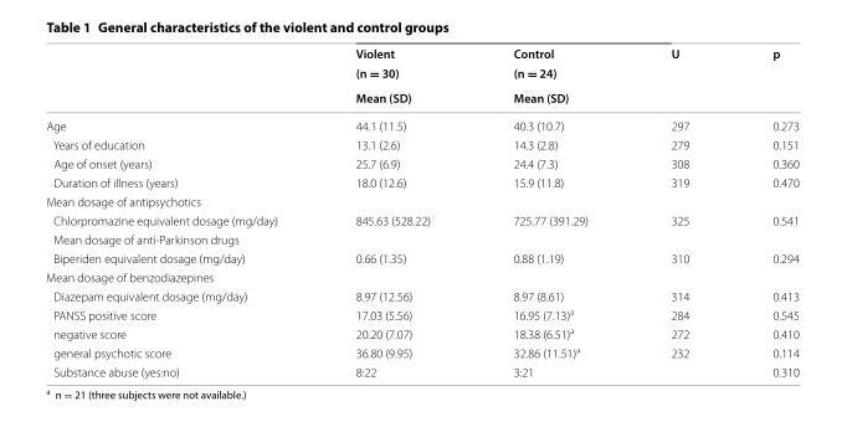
<table><thead><tr><td rowspan="3"></td><td rowspan="3">Violent (n = 30) Mean (SD)</td><td rowspan="3">Control (n = 24) Mean (SD)</td><td rowspan="3">U</td><td rowspan="3">p</td></tr><tr></tr><tr></tr></thead><tbody><tr><td>Age</td><td>44.1 (11.5)</td><td>40.3 (10.7)</td><td>297</td><td>0.273</td></tr><tr><td>Years of education</td><td>13.1 (2.6)</td><td>14.3 (2.8)</td><td>279</td><td>0.151</td></tr><tr><td>Age of onset (years)</td><td>25.7 (6.9)</td><td>24.4 (7.3)</td><td>308</td><td>0.360</td></tr><tr><td>Duration of illness (years)</td><td>18.0 (12.6)</td><td>15.9 (11.8)</td><td>319</td><td>0.470</td></tr><tr><td colspan="5">Mean dosage of antipsychotics</td></tr><tr><td>Chlorpromazine equivalent dosage (mg/day)</td><td>845.63 (528.22)</td><td>725.77 (391.29)</td><td>325</td><td>0.541</td></tr><tr><td colspan="5">Mean dosage of anti-Parkinson drugs</td></tr><tr><td>Biperiden equivalent dosage (mg/day)</td><td>0.66 (1.35)</td><td>0.88 (1.19)</td><td>310</td><td>0.294</td></tr><tr><td colspan="5">Mean dosage of benzodiazepines</td></tr><tr><td>Diazepam equivalent dosage (mg/day)</td><td>8.97 (12.56)</td><td>8.97 (8.61)</td><td>314</td><td>0.413</td></tr><tr><td>PANSS positive score</td><td>17.03 (5.56)</td><td>16.95 (7.13)<sup>a</sup></td><td>284</td><td>0.545</td></tr><tr><td>negative score</td><td>20.20 (7.07)</td><td>18.38 (6.51)<sup>a</sup></td><td>272</td><td>0.410</td></tr><tr><td>general psychotic score</td><td>36.80 (9.95)</td><td>32.86 (11.51)<sup>a</sup></td><td>232</td><td>0.114</td></tr><tr><td>Substance abuse (yes:no)</td><td>8:22</td><td>3:21</td><td></td><td>0.310</td></tr></tbody></table>